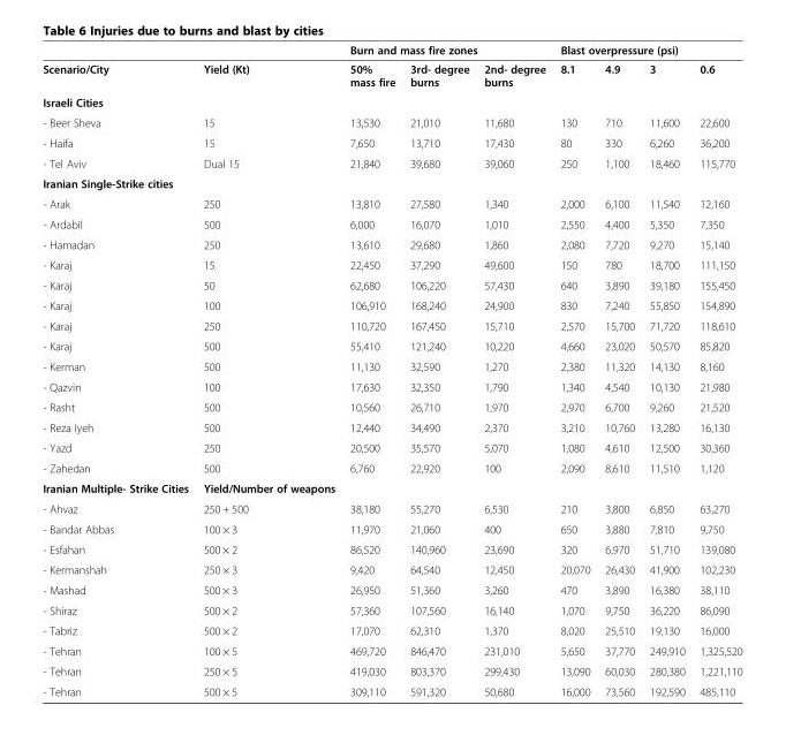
<table><thead><tr><td rowspan="2">Scenario/City</td><td rowspan="2">Yield (Kt)</td><td colspan="3">Burn and mass fire zones</td><td colspan="4">Blast overpressure (psi)</td></tr><tr><td>50% mass fire</td><td>3rd- degree burns</td><td>2nd- degree burns</td><td>8.1</td><td>4.9</td><td>3</td><td>0.6</td></tr></thead><tbody><tr><td colspan="9">Israeli Cities</td></tr><tr><td>- Beer Sheva</td><td>15</td><td>13,530</td><td>21,010</td><td>11,680</td><td>130</td><td>710</td><td>11,600</td><td>22,600</td></tr><tr><td>- Haifa</td><td>15</td><td>7,650</td><td>13,710</td><td>17,430</td><td>80</td><td>330</td><td>6,260</td><td>36,200</td></tr><tr><td>- Tel Aviv</td><td>Dual 15</td><td>21,840</td><td>39,680</td><td>39,060</td><td>250</td><td>1,100</td><td>18,460</td><td>115,770</td></tr><tr><td colspan="9">Iranian Single-Strike cities</td></tr><tr><td>- Arak</td><td>250</td><td>13,810</td><td>27,580</td><td>1,340</td><td>2,000</td><td>6,100</td><td>11,540</td><td>12,160</td></tr><tr><td>- Ardabil</td><td>500</td><td>6,000</td><td>16,070</td><td>1,010</td><td>2,550</td><td>4,400</td><td>5,350</td><td>7,350</td></tr><tr><td>- Hamadan</td><td>250</td><td>13,610</td><td>29,680</td><td>1,860</td><td>2,080</td><td>7,720</td><td>9,270</td><td>15,140</td></tr><tr><td>- Karaj</td><td>15</td><td>22,450</td><td>37,290</td><td>49,600</td><td>150</td><td>780</td><td>18,700</td><td>111,150</td></tr><tr><td>- Karaj</td><td>50</td><td>62,680</td><td>106,220</td><td>57,430</td><td>640</td><td>3,890</td><td>39,180</td><td>155,450</td></tr><tr><td>- Karaj</td><td>100</td><td>106,910</td><td>168,240</td><td>24,900</td><td>830</td><td>7,240</td><td>55,850</td><td>154,890</td></tr><tr><td>- Karaj</td><td>250</td><td>110,720</td><td>167,450</td><td>15,710</td><td>2,570</td><td>15,700</td><td>71,720</td><td>118,610</td></tr><tr><td>- Karaj</td><td>500</td><td>55,410</td><td>121,240</td><td>10,220</td><td>4,660</td><td>23,020</td><td>50,570</td><td>85,820</td></tr><tr><td>- Kerman</td><td>500</td><td>11,130</td><td>32,590</td><td>1,270</td><td>2,380</td><td>11,320</td><td>14,130</td><td>8,160</td></tr><tr><td>- Qazvin</td><td>100</td><td>17,630</td><td>32,350</td><td>1,790</td><td>1,340</td><td>4,540</td><td>10,130</td><td>21,980</td></tr><tr><td>- Rasht</td><td>500</td><td>10,560</td><td>26,710</td><td>1,970</td><td>2,970</td><td>6,700</td><td>9,260</td><td>21,520</td></tr><tr><td>- Reza Iyeh</td><td>500</td><td>12,440</td><td>34,490</td><td>2,370</td><td>3,210</td><td>10,760</td><td>13,280</td><td>16,130</td></tr><tr><td>- Yazd</td><td>250</td><td>20,500</td><td>35,570</td><td>5,070</td><td>1,080</td><td>4,610</td><td>12,500</td><td>30,360</td></tr><tr><td>- Zahedan</td><td>500</td><td>6,760</td><td>22,920</td><td>100</td><td>2,090</td><td>8,610</td><td>11,510</td><td>1,120</td></tr><tr><td>Iranian Multiple- Strike Cities</td><td>Yield/Number of weapons</td><td></td><td></td><td></td><td></td><td></td><td></td><td></td></tr><tr><td>- Ahvaz</td><td>250 + 500</td><td>38,180</td><td>55,270</td><td>6,530</td><td>210</td><td>3,800</td><td>6,850</td><td>63,270</td></tr><tr><td>- Bandar Abbas</td><td>100 × 3</td><td>11,970</td><td>21,060</td><td>400</td><td>650</td><td>3,880</td><td>7,810</td><td>9,750</td></tr><tr><td>- Esfahan</td><td>500 × 2</td><td>86,520</td><td>140,960</td><td>23,690</td><td>320</td><td>6,970</td><td>51,710</td><td>139,080</td></tr><tr><td>- Kermanshah</td><td>250 × 3</td><td>9,420</td><td>64,540</td><td>12,450</td><td>20,070</td><td>26,430</td><td>41,900</td><td>102,230</td></tr><tr><td>- Mashad</td><td>500 × 3</td><td>26,950</td><td>51,360</td><td>3,260</td><td>470</td><td>3,890</td><td>16,380</td><td>38,110</td></tr><tr><td>- Shiraz</td><td>500 × 2</td><td>57,360</td><td>107,560</td><td>16,140</td><td>1,070</td><td>9,750</td><td>36,220</td><td>86,090</td></tr><tr><td>- Tabriz</td><td>500 × 2</td><td>17,070</td><td>62,310</td><td>1,370</td><td>8,020</td><td>25,510</td><td>19,130</td><td>16,000</td></tr><tr><td>- Tehran</td><td>100 × 5</td><td>469,720</td><td>846,470</td><td>231,010</td><td>5,650</td><td>37,770</td><td>249,910</td><td>1,325,520</td></tr><tr><td>- Tehran</td><td>250 × 5</td><td>419,030</td><td>803,370</td><td>299,430</td><td>13,090</td><td>60,030</td><td>280,380</td><td>1,221,110</td></tr><tr><td>- Tehran</td><td>500 × 5</td><td>309,110</td><td>591,320</td><td>50,680</td><td>16,000</td><td>73,560</td><td>192,590</td><td>485,110</td></tr></tbody></table>